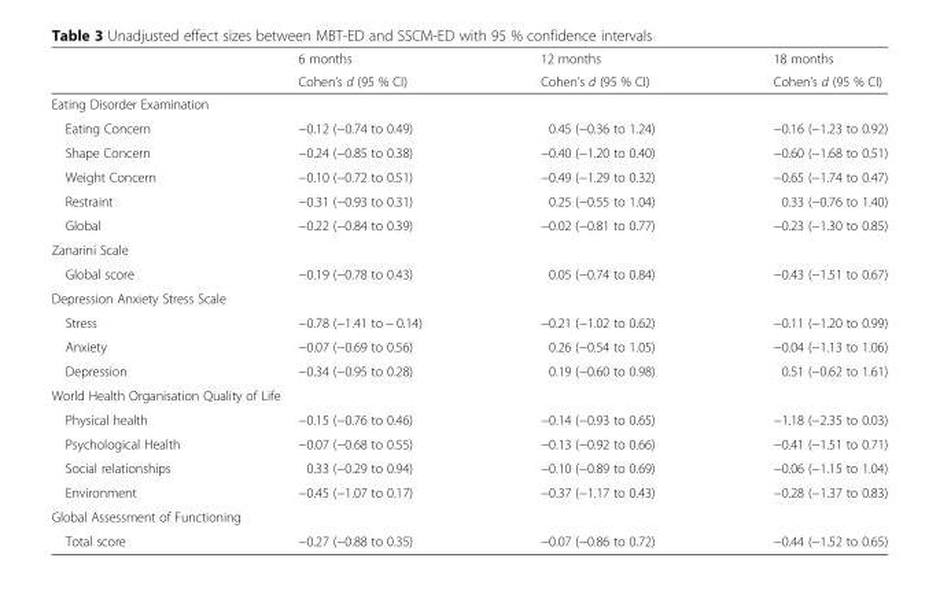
<table><thead><tr><td rowspan="2"></td><td rowspan="2">6 months Cohen’s d (95 % CI)</td><td rowspan="2">12 months Cohen’s d (95 % CI)</td><td rowspan="2">18 months Cohen’s d (95 % CI)</td></tr><tr></tr></thead><tbody><tr><td colspan="4">Eating Disorder Examination</td></tr><tr><td>Eating Concern</td><td>−0.12 (−0.74 to 0.49)</td><td>0.45 (−0.36 to 1.24)</td><td>−0.16 (−1.23 to 0.92)</td></tr><tr><td>Shape Concern</td><td>−0.24 (−0.85 to 0.38)</td><td>−0.40 (−1.20 to 0.40)</td><td>−0.60 (−1.68 to 0.51)</td></tr><tr><td>Weight Concern</td><td>−0.10 (−0.72 to 0.51)</td><td>−0.49 (−1.29 to 0.32)</td><td>−0.65 (−1.74 to 0.47)</td></tr><tr><td>Restraint</td><td>−0.31 (−0.93 to 0.31)</td><td>0.25 (−0.55 to 1.04)</td><td>0.33 (−0.76 to 1.40)</td></tr><tr><td>Global</td><td>−0.22 (−0.84 to 0.39)</td><td>−0.02 (−0.81 to 0.77)</td><td>−0.23 (−1.30 to 0.85)</td></tr><tr><td colspan="4">Zanarini Scale</td></tr><tr><td>Global score</td><td>−0.19 (−0.78 to 0.43)</td><td>0.05 (−0.74 to 0.84)</td><td>−0.43 (−1.51 to 0.67)</td></tr><tr><td colspan="4">Depression Anxiety Stress Scale</td></tr><tr><td>Stress</td><td>−0.78 (−1.41 to − 0.14)</td><td>−0.21 (−1.02 to 0.62)</td><td>−0.11 (−1.20 to 0.99)</td></tr><tr><td>Anxiety</td><td>−0.07 (−0.69 to 0.56)</td><td>0.26 (−0.54 to 1.05)</td><td>−0.04 (−1.13 to 1.06)</td></tr><tr><td>Depression</td><td>−0.34 (−0.95 to 0.28)</td><td>0.19 (−0.60 to 0.98)</td><td>0.51 (−0.62 to 1.61)</td></tr><tr><td colspan="4">World Health Organisation Quality of Life</td></tr><tr><td>Physical health</td><td>−0.15 (−0.76 to 0.46)</td><td>−0.14 (−0.93 to 0.65)</td><td>−1.18 (−2.35 to 0.03)</td></tr><tr><td>Psychological Health</td><td>−0.07 (−0.68 to 0.55)</td><td>−0.13 (−0.92 to 0.66)</td><td>−0.41 (−1.51 to 0.71)</td></tr><tr><td>Social relationships</td><td>0.33 (−0.29 to 0.94)</td><td>−0.10 (−0.89 to 0.69)</td><td>−0.06 (−1.15 to 1.04)</td></tr><tr><td>Environment</td><td>−0.45 (−1.07 to 0.17)</td><td>−0.37 (−1.17 to 0.43)</td><td>−0.28 (−1.37 to 0.83)</td></tr><tr><td colspan="4">Global Assessment of Functioning</td></tr><tr><td>Total score</td><td>−0.27 (−0.88 to 0.35)</td><td>−0.07 (−0.86 to 0.72)</td><td>−0.44 (−1.52 to 0.65)</td></tr></tbody></table>